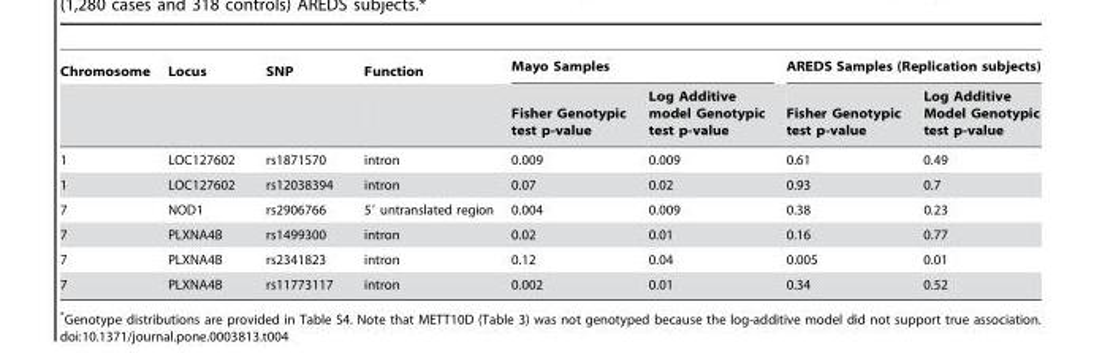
<table><thead><tr><td rowspan="2">Chromosome</td><td rowspan="2">Locus</td><td rowspan="2">SNP</td><td rowspan="2">Function</td><td colspan="2">Mayo Samples</td><td colspan="2">AREDS Samples (Replication subjects)</td></tr><tr><td>Fisher Genotypic test p-value</td><td>Log Additive model Genotypic test p-value</td><td>Fisher Genotypic test p-value</td><td>Log Additive Model Genotypic test p-value</td></tr></thead><tbody><tr><td>1</td><td>LOC127602</td><td>rs1871570</td><td>intron</td><td>0.009</td><td>0.009</td><td>0.61</td><td>0.49</td></tr><tr><td>1</td><td>LOC127602</td><td>rs12038394</td><td>intron</td><td>0.07</td><td>0.02</td><td>0.93</td><td>0.7</td></tr><tr><td>7</td><td>NOD1</td><td>rs2906766</td><td>5′ untranslated region</td><td>0.004</td><td>0.009</td><td>0.38</td><td>0.23</td></tr><tr><td>7</td><td>PLXNA4B</td><td>rs1499300</td><td>intron</td><td>0.02</td><td>0.01</td><td>0.16</td><td>0.77</td></tr><tr><td>7</td><td>PLXNA4B</td><td>rs2341823</td><td>intron</td><td>0.12</td><td>0.04</td><td>0.005</td><td>0.01</td></tr><tr><td>7</td><td>PLXNA4B</td><td>rs11773117</td><td>intron</td><td>0.002</td><td>0.01</td><td>0.34</td><td>0.52</td></tr></tbody></table>